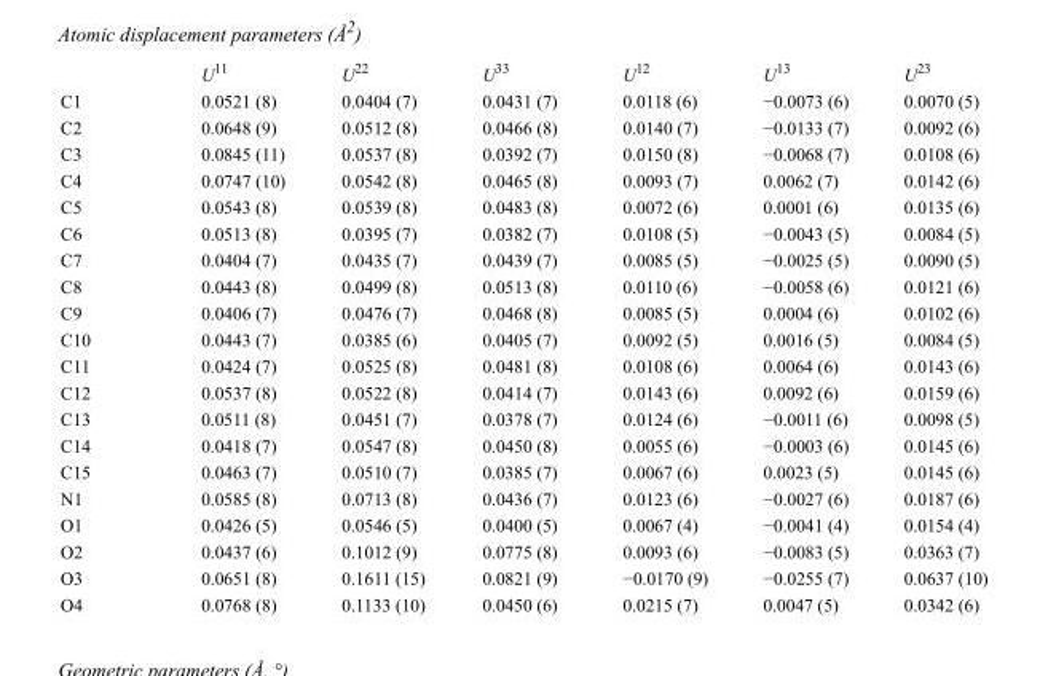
<table><thead><tr><td></td><td>U<sup>11</sup></td><td>U<sup>22</sup></td><td>U<sup>33</sup></td><td>U<sup>12</sup></td><td>U<sup>13</sup></td><td>U<sup>23</sup></td></tr></thead><tbody><tr><td>C1</td><td>0.0521 (8)</td><td>0.0404 (7)</td><td>0.0431 (7)</td><td>0.0118 (6)</td><td>−0.0073 (6)</td><td>0.0070 (5)</td></tr><tr><td>C2</td><td>0.0648 (9)</td><td>0.0512 (8)</td><td>0.0466 (8)</td><td>0.0140 (7)</td><td>−0.0133 (7)</td><td>0.0092 (6)</td></tr><tr><td>C3</td><td>0.0845 (11)</td><td>0.0537 (8)</td><td>0.0392 (7)</td><td>0.0150 (8)</td><td>−0.0068 (7)</td><td>0.0108 (6)</td></tr><tr><td>C4</td><td>0.0747 (10)</td><td>0.0542 (8)</td><td>0.0465 (8)</td><td>0.0093 (7)</td><td>0.0062 (7)</td><td>0.0142 (6)</td></tr><tr><td>C5</td><td>0.0543 (8)</td><td>0.0539 (8)</td><td>0.0483 (8)</td><td>0.0072 (6)</td><td>0.0001 (6)</td><td>0.0135 (6)</td></tr><tr><td>C6</td><td>0.0513 (8)</td><td>0.0395 (7)</td><td>0.0382 (7)</td><td>0.0108 (5)</td><td>−0.0043 (5)</td><td>0.0084 (5)</td></tr><tr><td>C7</td><td>0.0404 (7)</td><td>0.0435 (7)</td><td>0.0439 (7)</td><td>0.0085 (5)</td><td>−0.0025 (5)</td><td>0.0090 (5)</td></tr><tr><td>C8</td><td>0.0443 (8)</td><td>0.0499 (8)</td><td>0.0513 (8)</td><td>0.0110 (6)</td><td>−0.0058 (6)</td><td>0.0121 (6)</td></tr><tr><td>C9</td><td>0.0406 (7)</td><td>0.0476 (7)</td><td>0.0468 (8)</td><td>0.0085 (5)</td><td>0.0004 (6)</td><td>0.0102 (6)</td></tr><tr><td>C10</td><td>0.0443 (7)</td><td>0.0385 (6)</td><td>0.0405 (7)</td><td>0.0092 (5)</td><td>0.0016 (5)</td><td>0.0084 (5)</td></tr><tr><td>C11</td><td>0.0424 (7)</td><td>0.0525 (8)</td><td>0.0481 (8)</td><td>0.0108 (6)</td><td>0.0064 (6)</td><td>0.0143 (6)</td></tr><tr><td>C12</td><td>0.0537 (8)</td><td>0.0522 (8)</td><td>0.0414 (7)</td><td>0.0143 (6)</td><td>0.0092 (6)</td><td>0.0159 (6)</td></tr><tr><td>C13</td><td>0.0511 (8)</td><td>0.0451 (7)</td><td>0.0378 (7)</td><td>0.0124 (6)</td><td>−0.0011 (6)</td><td>0.0098 (5)</td></tr><tr><td>C14</td><td>0.0418 (7)</td><td>0.0547 (8)</td><td>0.0450 (8)</td><td>0.0055 (6)</td><td>−0.0003 (6)</td><td>0.0145 (6)</td></tr><tr><td>C15</td><td>0.0463 (7)</td><td>0.0510 (7)</td><td>0.0385 (7)</td><td>0.0067 (6)</td><td>0.0023 (5)</td><td>0.0145 (6)</td></tr><tr><td>N1</td><td>0.0585 (8)</td><td>0.0713 (8)</td><td>0.0436 (7)</td><td>0.0123 (6)</td><td>−0.0027 (6)</td><td>0.0187 (6)</td></tr><tr><td>O1</td><td>0.0426 (5)</td><td>0.0546 (5)</td><td>0.0400 (5)</td><td>0.0067 (4)</td><td>−0.0041 (4)</td><td>0.0154 (4)</td></tr><tr><td>O2</td><td>0.0437 (6)</td><td>0.1012 (9)</td><td>0.0775 (8)</td><td>0.0093 (6)</td><td>−0.0083 (5)</td><td>0.0363 (7)</td></tr><tr><td>O3</td><td>0.0651 (8)</td><td>0.1611 (15)</td><td>0.0821 (9)</td><td>−0.0170 (9)</td><td>−0.0255 (7)</td><td>0.0637 (10)</td></tr><tr><td>O4</td><td>0.0768 (8)</td><td>0.1133 (10)</td><td>0.0450 (6)</td><td>0.0215 (7)</td><td>0.0047 (5)</td><td>0.0342 (6)</td></tr></tbody></table>